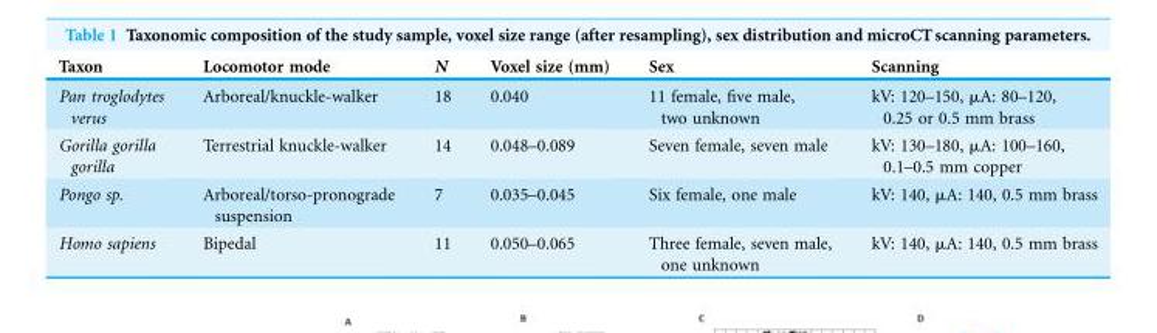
<table><thead><tr><td>Taxon</td><td>Locomotor mode</td><td>N</td><td>Voxel size (mm)</td><td>Sex</td><td>Scanning</td></tr></thead><tbody><tr><td>Pan troglodytes verus</td><td>Arboreal/knuckle-walker</td><td>18</td><td>0.040</td><td>11 female, five male, two unknown</td><td>kV: 120–150, μA: 80–120, 0.25 or 0.5 mm brass</td></tr><tr><td>Gorilla gorilla gorilla</td><td>Terrestrial knuckle-walker</td><td>14</td><td>0.048–0.089</td><td>Seven female, seven male</td><td>kV: 130–180, μA: 100–160, 0.1–0.5 mm copper</td></tr><tr><td>Pongo sp.</td><td>Arboreal/torso-pronograde suspension</td><td>7</td><td>0.035–0.045</td><td>Six female, one male</td><td>kV: 140, μA: 140, 0.5 mm brass</td></tr><tr><td>Homo sapiens</td><td>Bipedal</td><td>11</td><td>0.050–0.065</td><td>Three female, seven male, one unknown</td><td>kV: 140, μA: 140, 0.5 mm brass</td></tr></tbody></table>